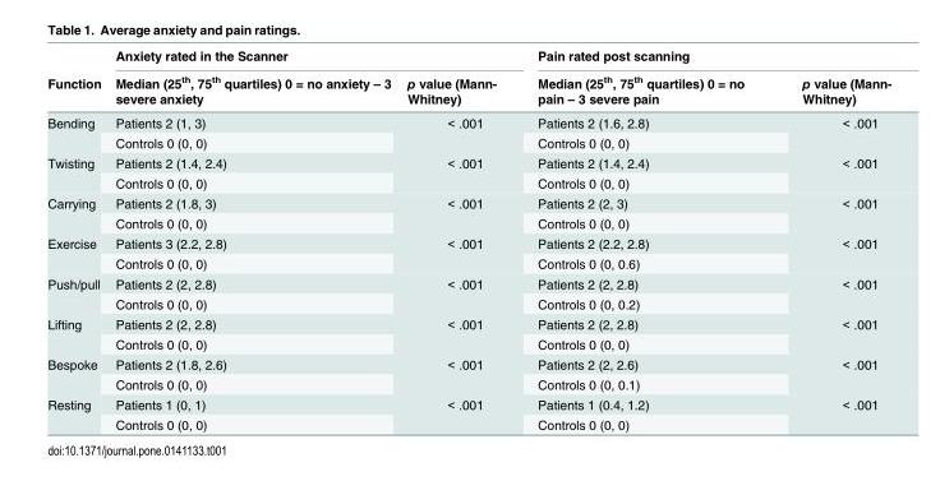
<table><thead><tr><td rowspan="2">Function</td><td colspan="2">Anxiety rated in the Scanner</td><td colspan="2">Pain rated post scanning</td></tr><tr><td>Median (25<sup>th</sup>, 75<sup>th</sup> quartiles) 0 = no anxiety – 3 severe anxiety</td><td>p value (Mann- Whitney)</td><td>Median (25<sup>th</sup>, 75<sup>th</sup> quartiles) 0 = no pain – 3 severe pain</td><td>p value (Mann- Whitney)</td></tr></thead><tbody><tr><td rowspan="2">Bending</td><td>Patients 2 (1, 3)</td><td rowspan="2">&lt; .001</td><td>Patients 2 (1.6, 2.8)</td><td rowspan="2">&lt; .001</td></tr><tr><td>Controls 0 (0, 0)</td><td>Controls 0 (0, 0)</td></tr><tr><td rowspan="2">Twisting</td><td>Patients 2 (1.4, 2.4)</td><td rowspan="2">&lt; .001</td><td>Patients 2 (1.4, 2.4)</td><td rowspan="2">&lt; .001</td></tr><tr><td>Controls 0 (0, 0)</td><td>Controls 0 (0, 0)</td></tr><tr><td rowspan="2">Carrying</td><td>Patients 2 (1.8, 3)</td><td rowspan="2">&lt; .001</td><td>Patients 2 (2, 3)</td><td rowspan="2">&lt; .001</td></tr><tr><td>Controls 0 (0, 0)</td><td>Controls 0 (0, 0)</td></tr><tr><td rowspan="2">Exercise</td><td>Patients 3 (2.2, 2.8)</td><td rowspan="2">&lt; .001</td><td>Patients 2 (2.2, 2.8)</td><td rowspan="2">&lt; .001</td></tr><tr><td>Controls 0 (0, 0)</td><td>Controls 0 (0, 0.6)</td></tr><tr><td rowspan="2">Push/pull</td><td>Patients 2 (2, 2.8)</td><td rowspan="2">&lt; .001</td><td>Patients 2 (2, 2.8)</td><td rowspan="2">&lt; .001</td></tr><tr><td>Controls 0 (0, 0)</td><td>Controls 0 (0, 0.2)</td></tr><tr><td rowspan="2">Lifting</td><td>Patients 2 (2, 2.8)</td><td rowspan="2">&lt; .001</td><td>Patients 2 (2, 2.8)</td><td rowspan="2">&lt; .001</td></tr><tr><td>Controls 0 (0, 0)</td><td>Controls 0 (0, 0)</td></tr><tr><td rowspan="2">Bespoke</td><td>Patients 2 (1.8, 2.6)</td><td rowspan="2">&lt; .001</td><td>Patients 2 (2, 2.6)</td><td rowspan="2">&lt; .001</td></tr><tr><td>Controls 0 (0, 0)</td><td>Controls 0 (0, 0.1)</td></tr><tr><td rowspan="2">Resting</td><td>Patients 1 (0, 1)</td><td rowspan="2">&lt; .001</td><td>Patients 1 (0.4, 1.2)</td><td rowspan="2">&lt; .001</td></tr><tr><td>Controls 0 (0, 0)</td><td>Controls 0 (0, 0)</td></tr></tbody></table>